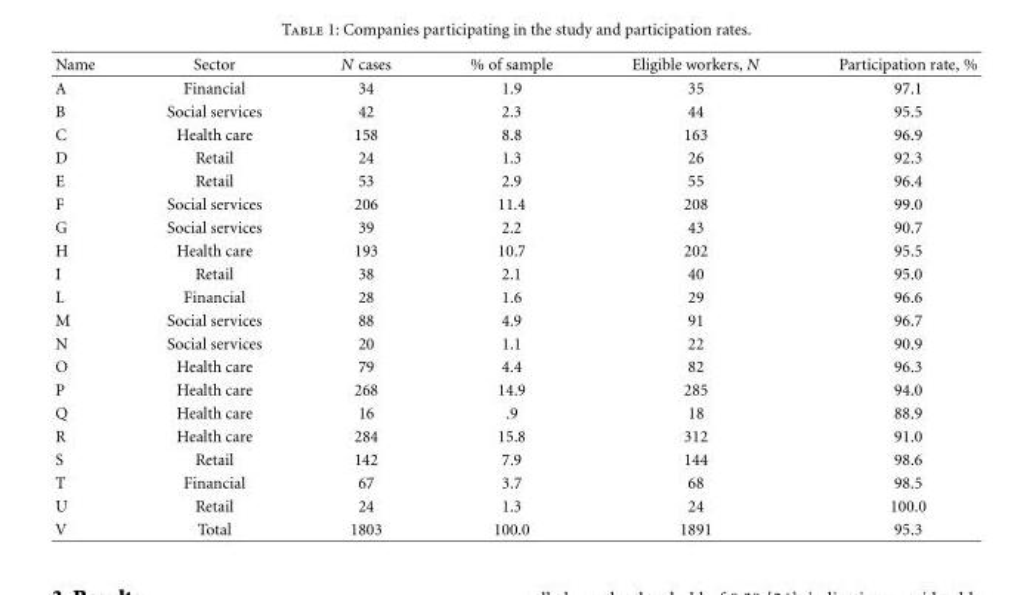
<table><thead><tr><td>Name</td><td>Sector</td><td>N cases</td><td>% of sample</td><td>Eligible workers, N</td><td>Participation rate, %</td></tr></thead><tbody><tr><td>A</td><td>Financial</td><td>34</td><td>1.9</td><td>35</td><td>97.1</td></tr><tr><td>B</td><td>Social services</td><td>42</td><td>2.3</td><td>44</td><td>95.5</td></tr><tr><td>C</td><td>Health care</td><td>158</td><td>8.8</td><td>163</td><td>96.9</td></tr><tr><td>D</td><td>Retail</td><td>24</td><td>1.3</td><td>26</td><td>92.3</td></tr><tr><td>E</td><td>Retail</td><td>53</td><td>2.9</td><td>55</td><td>96.4</td></tr><tr><td>F</td><td>Social services</td><td>206</td><td>11.4</td><td>208</td><td>99.0</td></tr><tr><td>G</td><td>Social services</td><td>39</td><td>2.2</td><td>43</td><td>90.7</td></tr><tr><td>H</td><td>Health care</td><td>193</td><td>10.7</td><td>202</td><td>95.5</td></tr><tr><td>I</td><td>Retail</td><td>38</td><td>2.1</td><td>40</td><td>95.0</td></tr><tr><td>L</td><td>Financial</td><td>28</td><td>1.6</td><td>29</td><td>96.6</td></tr><tr><td>M</td><td>Social services</td><td>88</td><td>4.9</td><td>91</td><td>96.7</td></tr><tr><td>N</td><td>Social services</td><td>20</td><td>1.1</td><td>22</td><td>90.9</td></tr><tr><td>O</td><td>Health care</td><td>79</td><td>4.4</td><td>82</td><td>96.3</td></tr><tr><td>P</td><td>Health care</td><td>268</td><td>14.9</td><td>285</td><td>94.0</td></tr><tr><td>Q</td><td>Health care</td><td>16</td><td>.9</td><td>18</td><td>88.9</td></tr><tr><td>R</td><td>Health care</td><td>284</td><td>15.8</td><td>312</td><td>91.0</td></tr><tr><td>S</td><td>Retail</td><td>142</td><td>7.9</td><td>144</td><td>98.6</td></tr><tr><td>T</td><td>Financial</td><td>67</td><td>3.7</td><td>68</td><td>98.5</td></tr><tr><td>U</td><td>Retail</td><td>24</td><td>1.3</td><td>24</td><td>100.0</td></tr><tr><td>V</td><td>Total</td><td>1803</td><td>100.0</td><td>1891</td><td>95.3</td></tr></tbody></table>